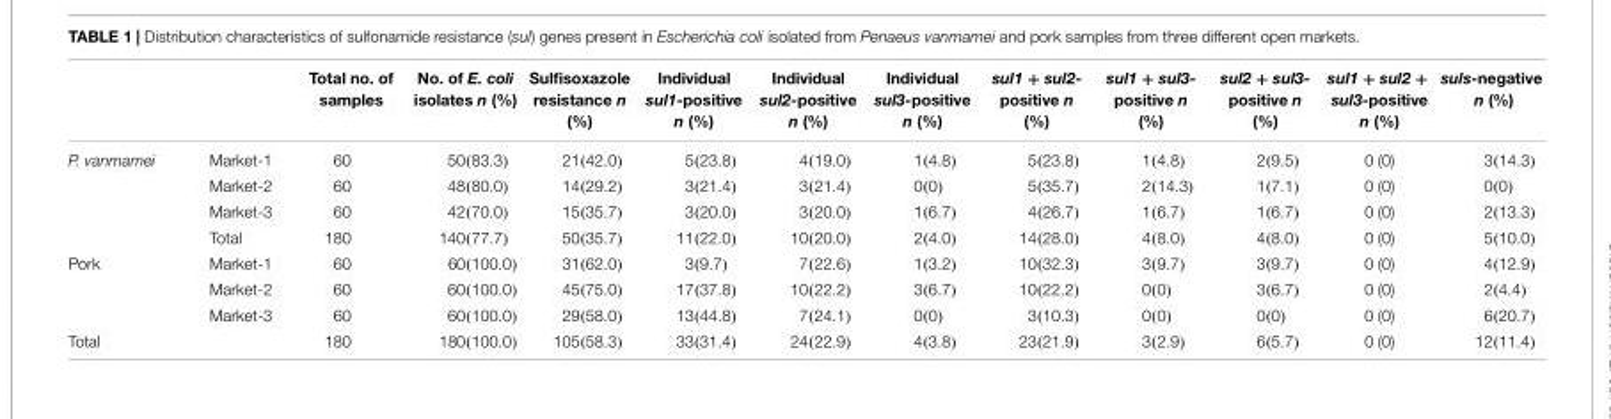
<table><thead><tr><td></td><td></td><td>Total no. of samples</td><td>No. of E. coli isolates n (%)</td><td>Sulfisoxazole resistance n (%)</td><td>Individual sul1-positive n (%)</td><td>Individual sul2-positive n (%)</td><td>Individual sul3-positive n (%)</td><td>sul1 + sul2- positive n (%)</td><td>sul1 + sul3- positive n (%)</td><td>sul2 + sul3- positive n (%)</td><td>sul1 + sul2 + sul3-positive n (%)</td><td>suls-negative n (%)</td></tr></thead><tbody><tr><td rowspan="4">P. vanmamei</td><td>Market-1</td><td>60</td><td>50(83.3)</td><td>21(42.0)</td><td>5(23.8)</td><td>4(19.0)</td><td>1(4.8)</td><td>5(23.8)</td><td>1(4.8)</td><td>2(9.5)</td><td>0 (0)</td><td>3(14.3)</td></tr><tr><td>Market-2</td><td>60</td><td>48(80.0)</td><td>14(29.2)</td><td>3(21.4)</td><td>3(21.4)</td><td>0(0)</td><td>5(35.7)</td><td>2(14.3)</td><td>1(7.1)</td><td>0 (0)</td><td>0(0)</td></tr><tr><td>Market-3</td><td>60</td><td>42(70.0)</td><td>15(35.7)</td><td>3(20.0)</td><td>3(20.0)</td><td>1(6.7)</td><td>4(26.7)</td><td>1(6.7)</td><td>1(6.7)</td><td>0 (0)</td><td>2(13.3)</td></tr><tr><td>Total</td><td>180</td><td>140(77.7)</td><td>50(35.7)</td><td>11(22.0)</td><td>10(20.0)</td><td>2(4.0)</td><td>14(28.0)</td><td>4(8.0)</td><td>4(8.0)</td><td>0 (0)</td><td>5(10.0)</td></tr><tr><td rowspan="3">Pork</td><td>Market-1</td><td>60</td><td>60(100.0)</td><td>31(62.0)</td><td>3(9.7)</td><td>7(22.6)</td><td>1(3.2)</td><td>10(32.3)</td><td>3(9.7)</td><td>3(9.7)</td><td>0 (0)</td><td>4(12.9)</td></tr><tr><td>Market-2</td><td>60</td><td>60(100.0)</td><td>45(75.0)</td><td>17(37.8)</td><td>10(22.2)</td><td>3(6.7)</td><td>10(22.2)</td><td>0(0)</td><td>3(6.7)</td><td>0 (0)</td><td>2(4.4)</td></tr><tr><td>Market-3</td><td>60</td><td>60(100.0)</td><td>29(58.0)</td><td>13(44.8)</td><td>7(24.1)</td><td>0(0)</td><td>3(10.3)</td><td>0(0)</td><td>0(0)</td><td>0 (0)</td><td>6(20.7)</td></tr><tr><td>Total</td><td></td><td>180</td><td>180(100.0)</td><td>105(58.3)</td><td>33(31.4)</td><td>24(22.9)</td><td>4(3.8)</td><td>23(21.9)</td><td>3(2.9)</td><td>6(5.7)</td><td>0 (0)</td><td>12(11.4)</td></tr></tbody></table>